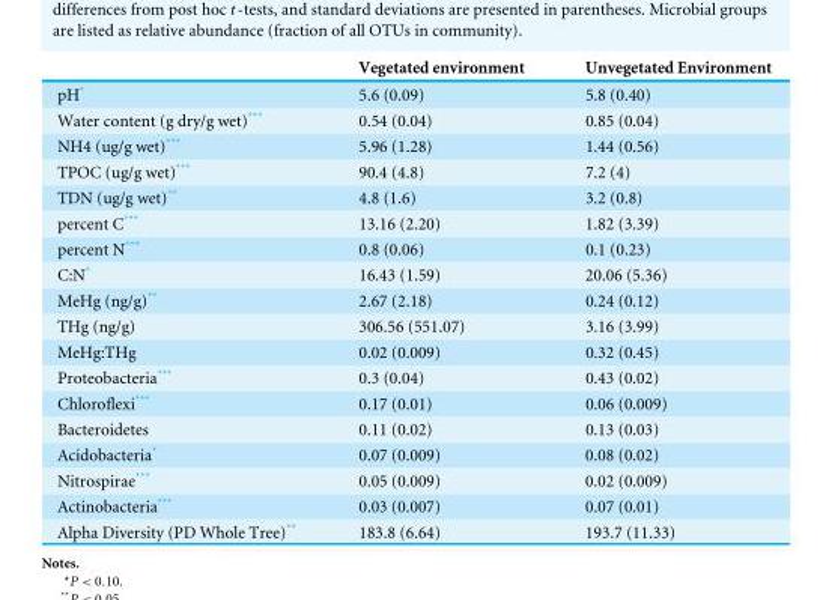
<table><thead><tr><td></td><td>Vegetated environment</td><td>Unvegetated Environment</td></tr></thead><tbody><tr><td>pH*</td><td>5.6 (0.09)</td><td>5.8 (0.40)</td></tr><tr><td>Water content (g dry/g wet)***</td><td>0.54 (0.04)</td><td>0.85 (0.04)</td></tr><tr><td>NH4 (ug/g wet)***</td><td>5.96 (1.28)</td><td>1.44 (0.56)</td></tr><tr><td>TPOC (ug/g wet)***</td><td>90.4 (4.8)</td><td>7.2 (4)</td></tr><tr><td>TDN (ug/g wet)**</td><td>4.8 (1.6)</td><td>3.2 (0.8)</td></tr><tr><td>percent C***</td><td>13.16 (2.20)</td><td>1.82 (3.39)</td></tr><tr><td>percent N***</td><td>0.8 (0.06)</td><td>0.1 (0.23)</td></tr><tr><td>C:N*</td><td>16.43 (1.59)</td><td>20.06 (5.36)</td></tr><tr><td>MeHg (ng/g)**</td><td>2.67 (2.18)</td><td>0.24 (0.12)</td></tr><tr><td>THg (ng/g)</td><td>306.56 (551.07)</td><td>3.16 (3.99)</td></tr><tr><td>MeHg:THg</td><td>0.02 (0.009)</td><td>0.32 (0.45)</td></tr><tr><td>Proteobacteria***</td><td>0.3 (0.04)</td><td>0.43 (0.02)</td></tr><tr><td>Chloroflexi***</td><td>0.17 (0.01)</td><td>0.06 (0.009)</td></tr><tr><td>Bacteroidetes</td><td>0.11 (0.02)</td><td>0.13 (0.03)</td></tr><tr><td>Acidobacteria*</td><td>0.07 (0.009)</td><td>0.08 (0.02)</td></tr><tr><td>Nitrospirae***</td><td>0.05 (0.009)</td><td>0.02 (0.009)</td></tr><tr><td>Actinobacteria***</td><td>0.03 (0.007)</td><td>0.07 (0.01)</td></tr><tr><td>Alpha Diversity (PD Whole Tree)**</td><td>183.8 (6.64)</td><td>193.7 (11.33)</td></tr></tbody></table>